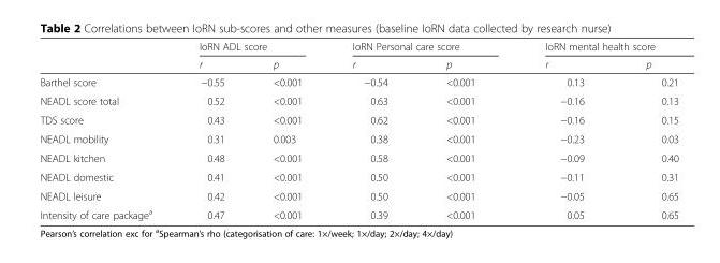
<table><thead><tr><td rowspan="2"></td><td colspan="2">IoRN ADL score</td><td colspan="2">IoRN Personal care score</td><td colspan="2">IoRN mental health score</td></tr><tr><td>r</td><td>p</td><td>r</td><td>p</td><td>r</td><td>p</td></tr></thead><tbody><tr><td>Barthel score</td><td>−0.55</td><td>&lt;0.001</td><td>−0.54</td><td>&lt;0.001</td><td>0.13</td><td>0.21</td></tr><tr><td>NEADL score total</td><td>0.52</td><td>&lt;0.001</td><td>0.63</td><td>&lt;0.001</td><td>−0.16</td><td>0.13</td></tr><tr><td>TDS score</td><td>0.43</td><td>&lt;0.001</td><td>0.62</td><td>&lt;0.001</td><td>−0.16</td><td>0.15</td></tr><tr><td>NEADL mobility</td><td>0.31</td><td>0.003</td><td>0.38</td><td>&lt;0.001</td><td>−0.23</td><td>0.03</td></tr><tr><td>NEADL kitchen</td><td>0.48</td><td>&lt;0.001</td><td>0.58</td><td>&lt;0.001</td><td>−0.09</td><td>0.40</td></tr><tr><td>NEADL domestic</td><td>0.41</td><td>&lt;0.001</td><td>0.50</td><td>&lt;0.001</td><td>−0.11</td><td>0.31</td></tr><tr><td>NEADL leisure</td><td>0.42</td><td>&lt;0.001</td><td>0.50</td><td>&lt;0.001</td><td>−0.05</td><td>0.65</td></tr><tr><td>Intensity of care package<sup>a</sup></td><td>0.47</td><td>&lt;0.001</td><td>0.39</td><td>&lt;0.001</td><td>0.05</td><td>0.65</td></tr></tbody></table>